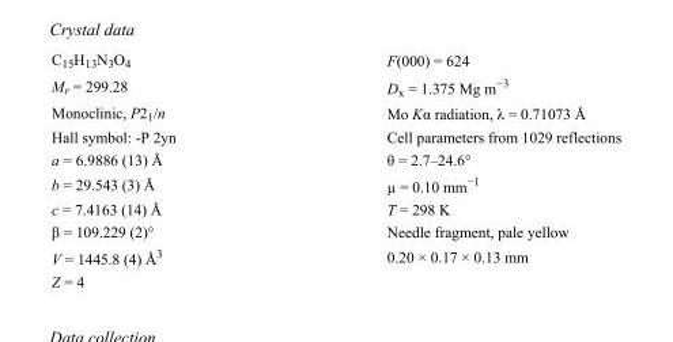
<table><tbody><tr><td>C<sub>15</sub>H<sub>13</sub>N<sub>3</sub>O<sub>4</sub></td><td>F(000) = 624</td></tr><tr><td>M<sub>r</sub> = 299.28</td><td>D<sub>x</sub> = 1.375 Mg m<sup>−3</sup></td></tr><tr><td>Monoclinic, P2<sub>1</sub>/n</td><td>Mo Kα radiation, λ = 0.71073 Å</td></tr><tr><td>Hall symbol: -P 2yn</td><td>Cell parameters from 1029 reflections</td></tr><tr><td>a = 6.9886 (13) Å</td><td>θ = 2.7–24.6°</td></tr><tr><td>b = 29.543 (3) Å</td><td>µ = 0.10 mm<sup>−1</sup></td></tr><tr><td>c = 7.4163 (14) Å</td><td>T = 298 K</td></tr><tr><td>β = 109.229 (2)°</td><td>Needle fragment, pale yellow</td></tr><tr><td>V = 1445.8 (4) Å<sup>3</sup></td><td>0.20 × 0.17 × 0.13 mm</td></tr><tr><td>Z = 4</td><td></td></tr></tbody></table>